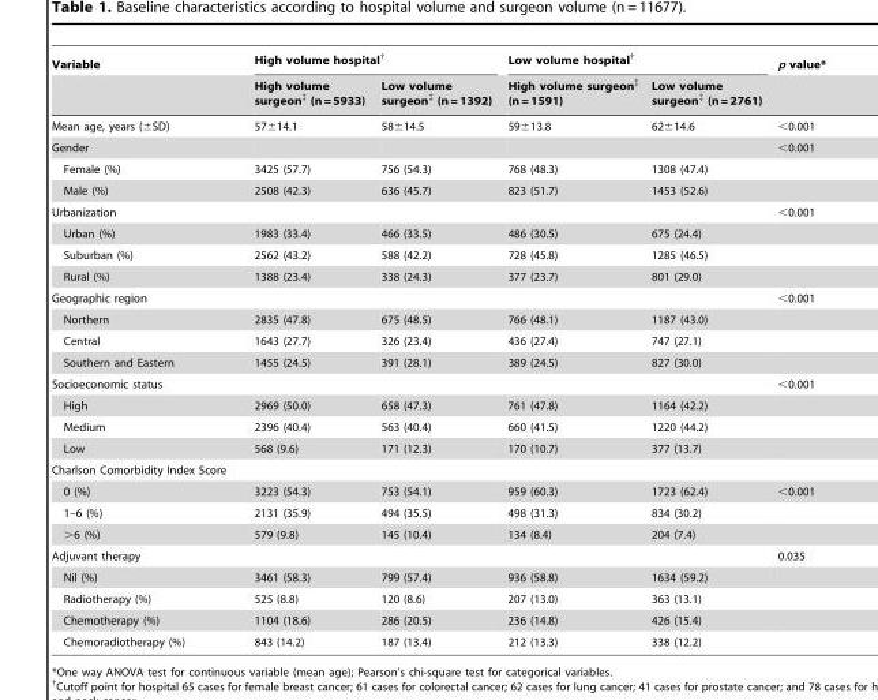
<table><thead><tr><td rowspan="2">Variable</td><td colspan="2">High volume hospital†</td><td colspan="2">Low volume hospital†</td><td rowspan="2">p value*</td></tr><tr><td>High volume surgeon‡ (n = 5933)</td><td>Low volume surgeon‡ (n = 1392)</td><td>High volume surgeon‡ (n = 1591)</td><td>Low volume surgeon‡ (n = 2761)</td></tr></thead><tbody><tr><td>Mean age, years (±SD)</td><td>57±14.1</td><td>58±14.5</td><td>59±13.8</td><td>62±14.6</td><td>&lt;0.001</td></tr><tr><td>Gender</td><td></td><td></td><td></td><td></td><td>&lt;0.001</td></tr><tr><td>Female (%)</td><td>3425 (57.7)</td><td>756 (54.3)</td><td>768 (48.3)</td><td>1308 (47.4)</td><td></td></tr><tr><td>Male (%)</td><td>2508 (42.3)</td><td>636 (45.7)</td><td>823 (51.7)</td><td>1453 (52.6)</td><td></td></tr><tr><td>Urbanization</td><td></td><td></td><td></td><td></td><td>&lt;0.001</td></tr><tr><td>Urban (%)</td><td>1983 (33.4)</td><td>466 (33.5)</td><td>486 (30.5)</td><td>675 (24.4)</td><td></td></tr><tr><td>Suburban (%)</td><td>2562 (43.2)</td><td>588 (42.2)</td><td>728 (45.8)</td><td>1285 (46.5)</td><td></td></tr><tr><td>Rural (%)</td><td>1388 (23.4)</td><td>338 (24.3)</td><td>377 (23.7)</td><td>801 (29.0)</td><td></td></tr><tr><td>Geographic region</td><td></td><td></td><td></td><td></td><td>&lt;0.001</td></tr><tr><td>Northern</td><td>2835 (47.8)</td><td>675 (48.5)</td><td>766 (48.1)</td><td>1187 (43.0)</td><td></td></tr><tr><td>Central</td><td>1643 (27.7)</td><td>326 (23.4)</td><td>436 (27.4)</td><td>747 (27.1)</td><td></td></tr><tr><td>Southern and Eastern</td><td>1455 (24.5)</td><td>391 (28.1)</td><td>389 (24.5)</td><td>827 (30.0)</td><td></td></tr><tr><td>Socioeconomic status</td><td></td><td></td><td></td><td></td><td>&lt;0.001</td></tr><tr><td>High</td><td>2969 (50.0)</td><td>658 (47.3)</td><td>761 (47.8)</td><td>1164 (42.2)</td><td></td></tr><tr><td>Medium</td><td>2396 (40.4)</td><td>563 (40.4)</td><td>660 (41.5)</td><td>1220 (44.2)</td><td></td></tr><tr><td>Low</td><td>568 (9.6)</td><td>171 (12.3)</td><td>170 (10.7)</td><td>377 (13.7)</td><td></td></tr><tr><td colspan="6">Charlson Comorbidity Index Score</td></tr><tr><td>0 (%)</td><td>3223 (54.3)</td><td>753 (54.1)</td><td>959 (60.3)</td><td>1723 (62.4)</td><td>&lt;0.001</td></tr><tr><td>1–6 (%)</td><td>2131 (35.9)</td><td>494 (35.5)</td><td>498 (31.3)</td><td>834 (30.2)</td><td></td></tr><tr><td>&gt;6 (%)</td><td>579 (9.8)</td><td>145 (10.4)</td><td>134 (8.4)</td><td>204 (7.4)</td><td></td></tr><tr><td>Adjuvant therapy</td><td></td><td></td><td></td><td></td><td>0.035</td></tr><tr><td>Nil (%)</td><td>3461 (58.3)</td><td>799 (57.4)</td><td>936 (58.8)</td><td>1634 (59.2)</td><td></td></tr><tr><td>Radiotherapy (%)</td><td>525 (8.8)</td><td>120 (8.6)</td><td>207 (13.0)</td><td>363 (13.1)</td><td></td></tr><tr><td>Chemotherapy (%)</td><td>1104 (18.6)</td><td>286 (20.5)</td><td>236 (14.8)</td><td>426 (15.4)</td><td></td></tr><tr><td>Chemoradiotherapy (%)</td><td>843 (14.2)</td><td>187 (13.4)</td><td>212 (13.3)</td><td>338 (12.2)</td><td></td></tr></tbody></table>